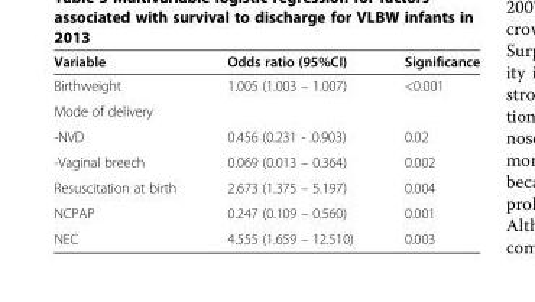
<table><thead><tr><td>Variable</td><td>Odds ratio (95%CI)</td><td>Significance</td></tr></thead><tbody><tr><td>Birthweight</td><td>1.005 (1.003 – 1.007)</td><td>&lt;0.001</td></tr><tr><td colspan="3">Mode of delivery</td></tr><tr><td>-NVD</td><td>0.456 (0.231 - .0.903)</td><td>0.02</td></tr><tr><td>-Vaginal breech</td><td>0.069 (0.013 – 0.364)</td><td>0.002</td></tr><tr><td>Resuscitation at birth</td><td>2.673 (1.375 – 5.197)</td><td>0.004</td></tr><tr><td>NCPAP</td><td>0.247 (0.109 – 0.560)</td><td>0.001</td></tr><tr><td>NEC</td><td>4.555 (1.659 – 12.510)</td><td>0.003</td></tr></tbody></table>